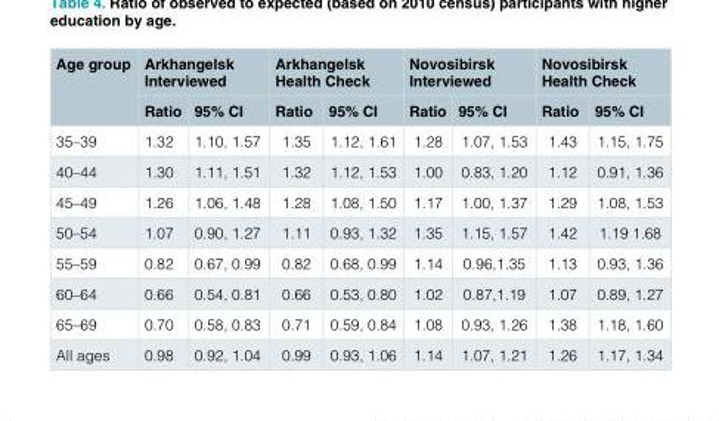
<table><thead><tr><td rowspan="2">Age group</td><td colspan="2">Arkhangelsk Interviewed</td><td colspan="2">Arkhangelsk Health Check</td><td colspan="2">Novosibirsk Interviewed</td><td colspan="2">Novosibirsk Health Check</td></tr><tr><td>Ratio</td><td>95% CI</td><td>Ratio</td><td>95% CI</td><td>Ratio</td><td>95% CI</td><td>Ratio</td><td>95% CI</td></tr></thead><tbody><tr><td>35–39</td><td>1.32</td><td>1.10, 1.57</td><td>1.35</td><td>1.12, 1.61</td><td>1.28</td><td>1.07, 1.53</td><td>1.43</td><td>1.15, 1.75</td></tr><tr><td>40–44</td><td>1.30</td><td>1.11, 1.51</td><td>1.32</td><td>1.12, 1.53</td><td>1.00</td><td>0.83, 1.20</td><td>1.12</td><td>0.91, 1.36</td></tr><tr><td>45–49</td><td>1.26</td><td>1.06, 1.48</td><td>1.28</td><td>1.08, 1.50</td><td>1.17</td><td>1.00, 1.37</td><td>1.29</td><td>1.08, 1.53</td></tr><tr><td>50–54</td><td>1.07</td><td>0.90, 1.27</td><td>1.11</td><td>0.93, 1.32</td><td>1.35</td><td>1.15, 1.57</td><td>1.42</td><td>1.19 1.68</td></tr><tr><td>55–59</td><td>0.82</td><td>0.67, 0.99</td><td>0.82</td><td>0.68, 0.99</td><td>1.14</td><td>0.96,1.35</td><td>1.13</td><td>0.93, 1.36</td></tr><tr><td>60–64</td><td>0.66</td><td>0.54, 0.81</td><td>0.66</td><td>0.53, 0.80</td><td>1.02</td><td>0.87,1.19</td><td>1.07</td><td>0.89, 1.27</td></tr><tr><td>65–69</td><td>0.70</td><td>0.58, 0.83</td><td>0.71</td><td>0.59, 0.84</td><td>1.08</td><td>0.93, 1.26</td><td>1.38</td><td>1.18, 1.60</td></tr><tr><td>All ages</td><td>0.98</td><td>0.92, 1.04</td><td>0.99</td><td>0.93, 1.06</td><td>1.14</td><td>1.07, 1.21</td><td>1.26</td><td>1.17, 1.34</td></tr></tbody></table>